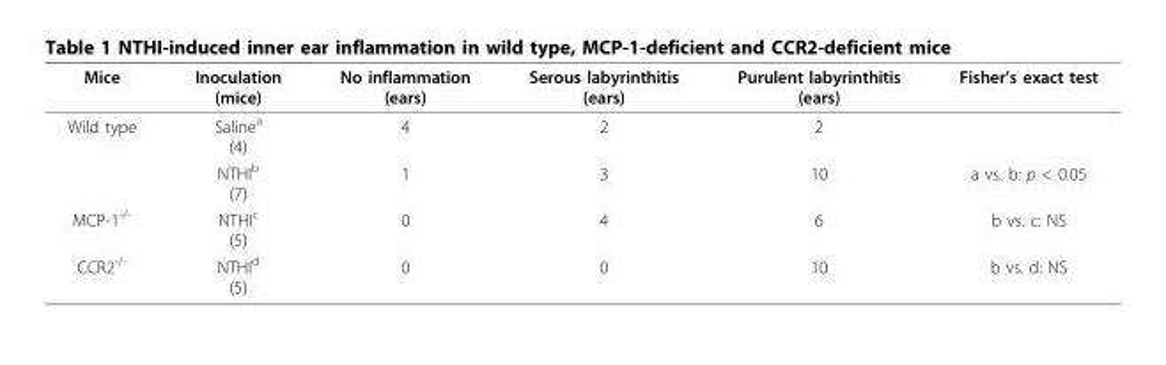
<table><thead><tr><td>Mice</td><td>Inoculation (mice)</td><td>No inflammation (ears)</td><td>Serous labyrinthitis (ears)</td><td>Purulent labyrinthitis (ears)</td><td>Fisher’s exact test</td></tr></thead><tbody><tr><td rowspan="2">Wild type</td><td>Saline<sup>a</sup> (4)</td><td>4</td><td>2</td><td>2</td><td></td></tr><tr><td>NTHI<sup>b</sup> (7)</td><td>1</td><td>3</td><td>10</td><td>a vs. b: p &lt; 0.05</td></tr><tr><td>MCP-1<sup>-/-</sup></td><td>NTHI<sup>c</sup> (5)</td><td>0</td><td>4</td><td>6</td><td>b vs. c: NS</td></tr><tr><td>CCR2<sup>-/-</sup></td><td>NTHI<sup>d</sup> (5)</td><td>0</td><td>0</td><td>10</td><td>b vs. d: NS</td></tr></tbody></table>